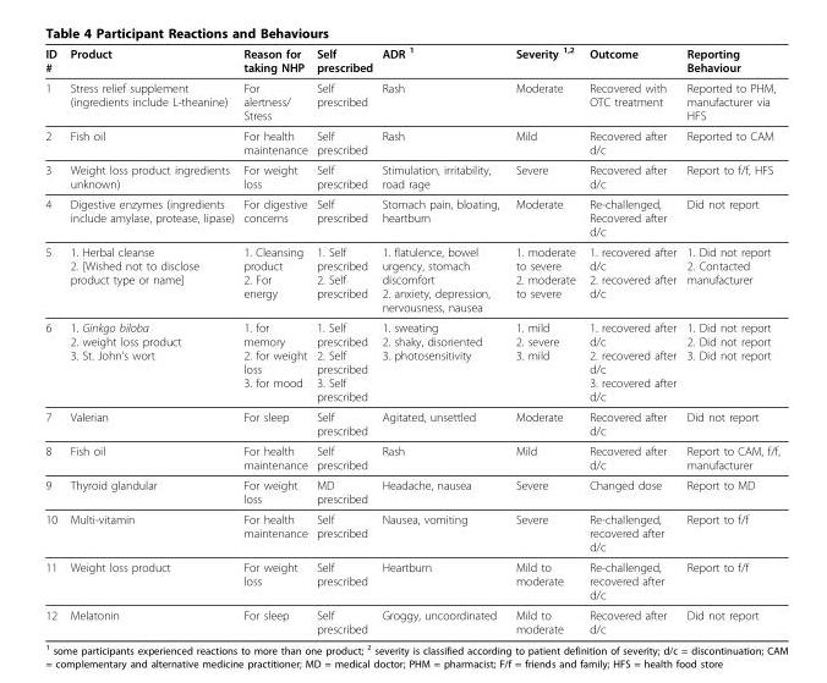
<table><thead><tr><td>ID #</td><td>Product</td><td>Reason for taking NHP</td><td>Self prescribed</td><td>ADR <sup>1</sup></td><td>Severity <sup>1,2</sup></td><td>Outcome</td><td>Reporting Behaviour</td></tr></thead><tbody><tr><td>1</td><td>Stress relief supplement (ingredients include L-theanine)</td><td>For alertness/ Stress</td><td>Self prescribed</td><td>Rash</td><td>Moderate</td><td>Recovered with OTC treatment</td><td>Reported to PHM, manufacturer via HFS</td></tr><tr><td>2</td><td>Fish oil</td><td>For health maintenance</td><td>Self prescribed</td><td>Rash</td><td>Mild</td><td>Recovered after d/c</td><td>Reported to CAM</td></tr><tr><td>3</td><td>Weight loss product ingredients unknown)</td><td>For weight loss</td><td>Self prescribed</td><td>Stimulation, irritability, road rage</td><td>Severe</td><td>Recovered after d/c</td><td>Report to f/f, HFS</td></tr><tr><td>4</td><td>Digestive enzymes (ingredients include amylase, protease, lipase)</td><td>For digestive concerns</td><td>Self prescribed</td><td>Stomach pain, bloating, heartburn</td><td>Moderate</td><td>Re-challenged, Recovered after d/c</td><td>Did not report</td></tr><tr><td>5</td><td>1. Herbal cleanse 2. [Wished not to disclose product type or name]</td><td>1. Cleansing product 2. For energy</td><td>1. Self prescribed 2. Self prescribed</td><td>1. flatulence, bowel urgency, stomach discomfort 2. anxiety, depression, nervousness, nausea</td><td>1. moderate to severe 2. moderate to severe</td><td>1. recovered after d/c 2. recovered after d/c</td><td>1. Did not report 2. Contacted manufacturer</td></tr><tr><td>6</td><td>1. Ginkgo biloba 2. weight loss product 3. St. John’s wort</td><td>1. for memory 2. for weight loss 3. for mood</td><td>1. Self prescribed 2. Self prescribed 3. Self prescribed</td><td>1. sweating 2. shaky, disoriented 3. photosensitivity</td><td>1. mild 2. severe 3. mild</td><td>1. recovered after d/c 2. recovered after d/c 3. recovered after d/c</td><td>1. Did not report 2. Did not report 3. Did not report</td></tr><tr><td>7</td><td>Valerian</td><td>For sleep</td><td>Self prescribed</td><td>Agitated, unsettled</td><td>Moderate</td><td>Recovered after d/c</td><td>Did not report</td></tr><tr><td>8</td><td>Fish oil</td><td>For health maintenance</td><td>Self prescribed</td><td>Rash</td><td>Mild</td><td>Recovered after d/c</td><td>Report to CAM, f/f, manufacturer</td></tr><tr><td>9</td><td>Thyroid glandular</td><td>For weight loss</td><td>MD prescribed</td><td>Headache, nausea</td><td>Severe</td><td>Changed dose</td><td>Report to MD</td></tr><tr><td>10</td><td>Multi-vitamin</td><td>For health maintenance</td><td>Self prescribed</td><td>Nausea, vomiting</td><td>Severe</td><td>Re-challenged, recovered after d/c</td><td>Report to f/f</td></tr><tr><td>11</td><td>Weight loss product</td><td>For weight loss</td><td>Self prescribed</td><td>Heartburn</td><td>Mild to moderate</td><td>Re-challenged, recovered after d/c</td><td>Report to f/f</td></tr><tr><td>12</td><td>Melatonin</td><td>For sleep</td><td>Self prescribed</td><td>Groggy, uncoordinated</td><td>Mild to moderate</td><td>Recovered after d/c</td><td>Did not report</td></tr></tbody></table>